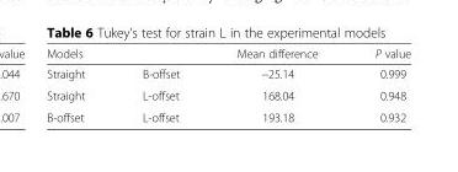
<table><thead><tr><td colspan="2">Models</td><td rowspan="2">Mean difference −25.14</td><td rowspan="2">P value 0.999</td></tr><tr><td>Straight</td><td>B-offset</td></tr></thead><tbody><tr><td>Straight</td><td>L-offset</td><td>168.04</td><td>0.948</td></tr><tr><td>B-offset</td><td>L-offset</td><td>193.18</td><td>0.932</td></tr></tbody></table>